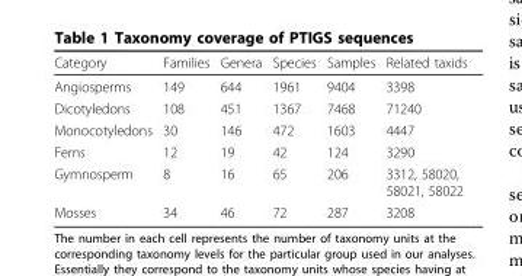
<table><thead><tr><td>Category</td><td>Families</td><td>Genera</td><td>Species</td><td>Samples</td><td>Related taxids</td></tr></thead><tbody><tr><td>Angiosperms</td><td>149</td><td>644</td><td>1961</td><td>9404</td><td>3398</td></tr><tr><td>Dicotyledons</td><td>108</td><td>451</td><td>1367</td><td>7468</td><td>71240</td></tr><tr><td>Monocotyledons</td><td>30</td><td>146</td><td>472</td><td>1603</td><td>4447</td></tr><tr><td>Ferns</td><td>12</td><td>19</td><td>42</td><td>124</td><td>3290</td></tr><tr><td>Gymnosperm</td><td>8</td><td>16</td><td>65</td><td>206</td><td>3312, 58020, 58021, 58022</td></tr><tr><td>Mosses</td><td>34</td><td>46</td><td>72</td><td>287</td><td>3208</td></tr></tbody></table>